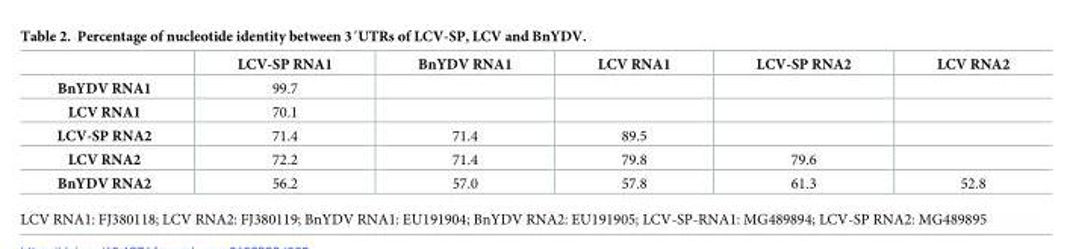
<table><thead><tr><td></td><td>LCV-SP RNA1</td><td>BnYDV RNA1</td><td>LCV RNA1</td><td>LCV-SP RNA2</td><td>LCV RNA2</td></tr></thead><tbody><tr><td>BnYDV RNA1</td><td>99.7</td><td></td><td></td><td></td><td></td></tr><tr><td>LCV RNA1</td><td>70.1</td><td></td><td></td><td></td><td></td></tr><tr><td>LCV-SP RNA2</td><td>71.4</td><td>71.4</td><td>89.5</td><td></td><td></td></tr><tr><td>LCV RNA2</td><td>72.2</td><td>71.4</td><td>79.8</td><td>79.6</td><td></td></tr><tr><td>BnYDV RNA2</td><td>56.2</td><td>57.0</td><td>57.8</td><td>61.3</td><td>52.8</td></tr></tbody></table>